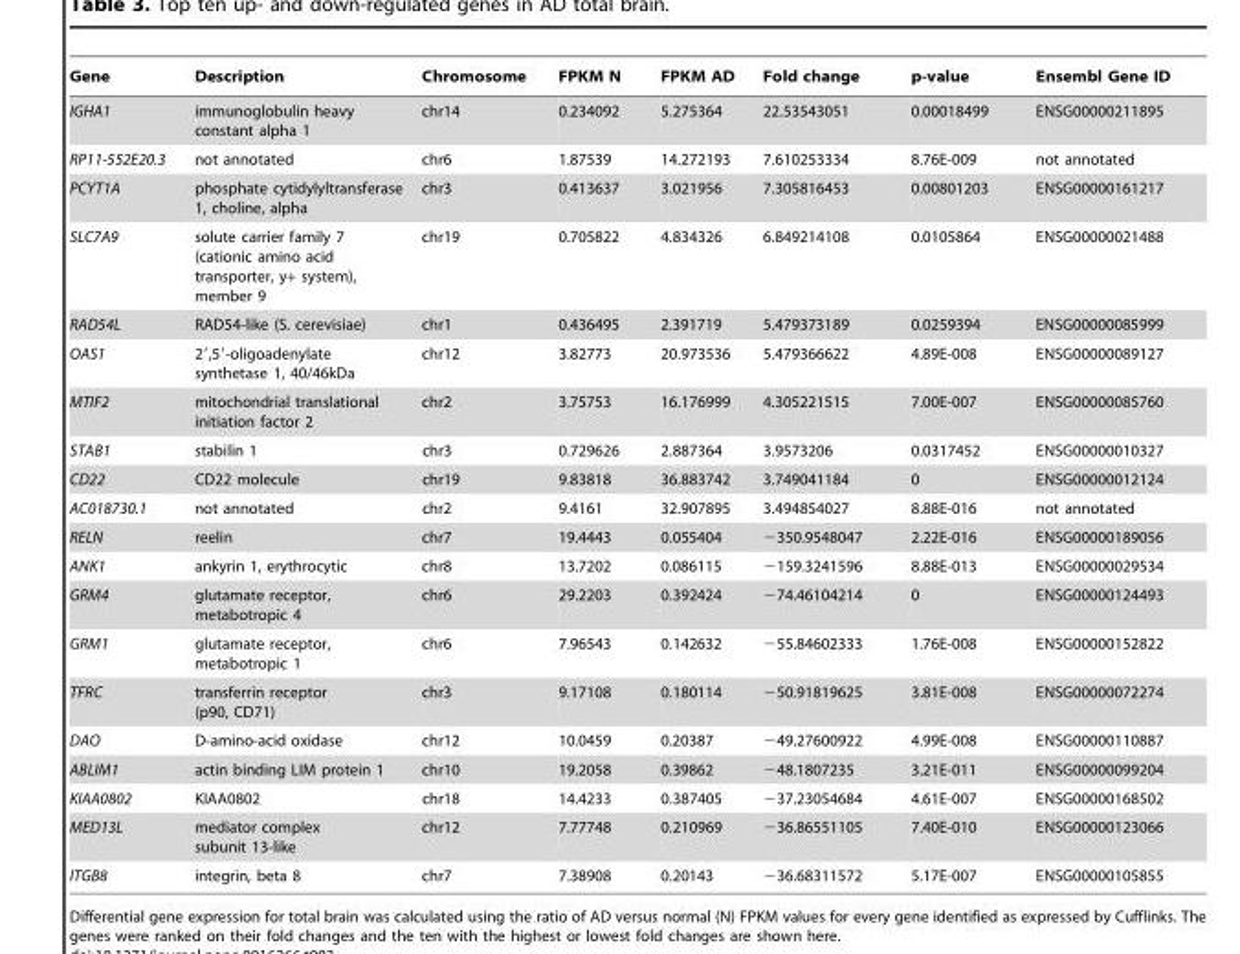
<table><thead><tr><td>Gene</td><td>Description</td><td>Chromosome</td><td>FPKM N</td><td>FPKM AD</td><td>Fold change</td><td>p-value</td><td>Ensembl Gene ID</td></tr></thead><tbody><tr><td>IGHA1</td><td>immunoglobulin heavy constant alpha 1</td><td>chr14</td><td>0.234092</td><td>5.275364</td><td>22.53543051</td><td>0.00018499</td><td>ENSG00000211895</td></tr><tr><td>RP11-552E20.3</td><td>not annotated</td><td>chr6</td><td>1.87539</td><td>14.272193</td><td>7.610253334</td><td>8.76E-009</td><td>not annotated</td></tr><tr><td>PCYT1A</td><td>phosphate cytidylyltransferase 1, choline, alpha</td><td>chr3</td><td>0.413637</td><td>3.021956</td><td>7.305816453</td><td>0.00801203</td><td>ENSG00000161217</td></tr><tr><td>SLC7A9</td><td>solute carrier family 7 (cationic amino acid transporter, y+ system), member 9</td><td>chr19</td><td>0.705822</td><td>4.834326</td><td>6.849214108</td><td>0.0105864</td><td>ENSG00000021488</td></tr><tr><td>RAD54L</td><td>RAD54-like (S. cerevisiae)</td><td>chr1</td><td>0.436495</td><td>2.391719</td><td>5.479373189</td><td>0.0259394</td><td>ENSG00000085999</td></tr><tr><td>OAS1</td><td>2′,5′-oligoadenylate synthetase 1, 40/46kDa</td><td>chr12</td><td>3.82773</td><td>20.973536</td><td>5.479366622</td><td>4.89E-008</td><td>ENSG00000089127</td></tr><tr><td>MTIF2</td><td>mitochondrial translational initiation factor 2</td><td>chr2</td><td>3.75753</td><td>16.176999</td><td>4.305221515</td><td>7.00E-007</td><td>ENSG00000085760</td></tr><tr><td>STAB1</td><td>stabilin 1</td><td>chr3</td><td>0.729626</td><td>2.887364</td><td>3.9573206</td><td>0.0317452</td><td>ENSG00000010327</td></tr><tr><td>CD22</td><td>CD22 molecule</td><td>chr19</td><td>9.83818</td><td>36.883742</td><td>3.749041184</td><td>0</td><td>ENSG00000012124</td></tr><tr><td>AC018730.1</td><td>not annotated</td><td>chr2</td><td>9.4161</td><td>32.907895</td><td>3.494854027</td><td>8.88E-016</td><td>not annotated</td></tr><tr><td>RELN</td><td>reelin</td><td>chr7</td><td>19.4443</td><td>0.055404</td><td>−350.9548047</td><td>2.22E-016</td><td>ENSG00000189056</td></tr><tr><td>ANK1</td><td>ankyrin 1, erythrocytic</td><td>chr8</td><td>13.7202</td><td>0.086115</td><td>−159.3241596</td><td>8.88E-013</td><td>ENSG00000029534</td></tr><tr><td>GRM4</td><td>glutamate receptor, metabotropic 4</td><td>chr6</td><td>29.2203</td><td>0.392424</td><td>−74.46104214</td><td>0</td><td>ENSG00000124493</td></tr><tr><td>GRM1</td><td>glutamate receptor, metabotropic 1</td><td>chr6</td><td>7.96543</td><td>0.142632</td><td>−55.84602333</td><td>1.76E-008</td><td>ENSG00000152822</td></tr><tr><td>TFRC</td><td>transferrin receptor (p90, CD71)</td><td>chr3</td><td>9.17108</td><td>0.180114</td><td>−50.91819625</td><td>3.81E-008</td><td>ENSG00000072274</td></tr><tr><td>DAO</td><td>D-amino-acid oxidase</td><td>chr12</td><td>10.0459</td><td>0.20387</td><td>−49.27600922</td><td>4.99E-008</td><td>ENSG00000110887</td></tr><tr><td>ABLIM1</td><td>actin binding LIM protein 1</td><td>chr10</td><td>19.2058</td><td>0.39862</td><td>−48.1807235</td><td>3.21E-011</td><td>ENSG00000099204</td></tr><tr><td>KIAA0802</td><td>KIAA0802</td><td>chr18</td><td>14.4233</td><td>0.387405</td><td>−37.23054684</td><td>4.61E-007</td><td>ENSG00000168502</td></tr><tr><td>MED13L</td><td>mediator complex subunit 13-like</td><td>chr12</td><td>7.77748</td><td>0.210969</td><td>−36.86551105</td><td>7.40E-010</td><td>ENSG00000123066</td></tr><tr><td>ITGB8</td><td>integrin, beta 8</td><td>chr7</td><td>7.38908</td><td>0.20143</td><td>−36.68311572</td><td>5.17E-007</td><td>ENSG00000105855</td></tr></tbody></table>